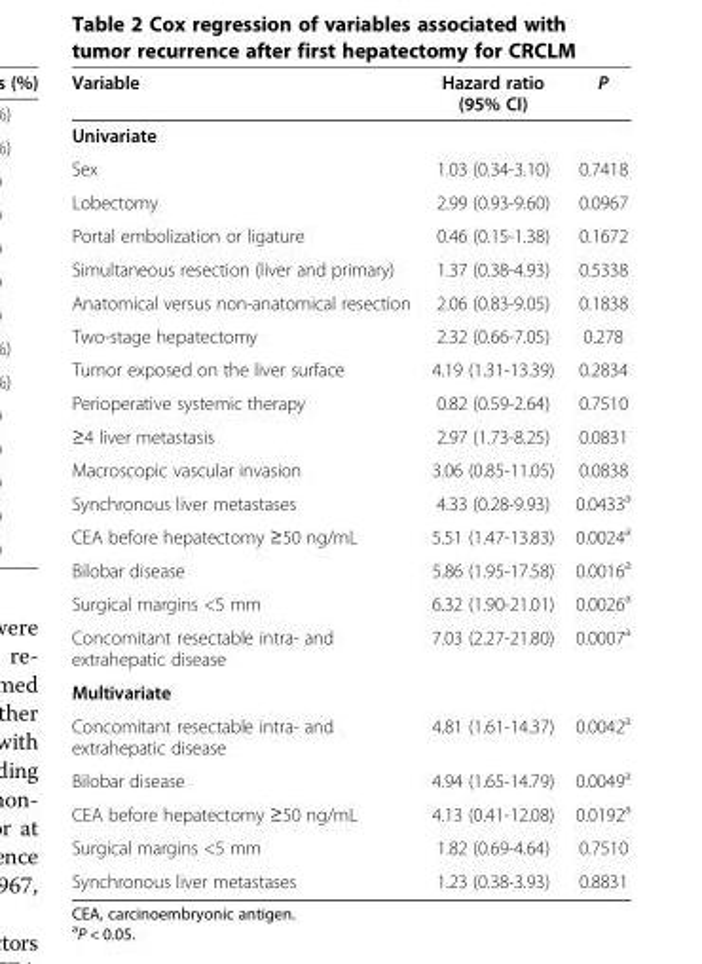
<table><thead><tr><td>Variable</td><td>Hazard ratio (95% CI)</td><td>P</td></tr></thead><tbody><tr><td colspan="3">Univariate</td></tr><tr><td>Sex</td><td>1.03 (0.34-3.10)</td><td>0.7418</td></tr><tr><td>Lobectomy</td><td>2.99 (0.93-9.60)</td><td>0.0967</td></tr><tr><td>Portal embolization or ligature</td><td>0.46 (0.15-1.38)</td><td>0.1672</td></tr><tr><td>Simultaneous resection (liver and primary)</td><td>1.37 (0.38-4.93)</td><td>0.5338</td></tr><tr><td>Anatomical versus non-anatomical resection</td><td>2.06 (0.83-9.05)</td><td>0.1838</td></tr><tr><td>Two-stage hepatectomy</td><td>2.32 (0.66-7.05)</td><td>0.278</td></tr><tr><td>Tumor exposed on the liver surface</td><td>4.19 (1.31-13.39)</td><td>0.2834</td></tr><tr><td>Perioperative systemic therapy</td><td>0.82 (0.59-2.64)</td><td>0.7510</td></tr><tr><td>≥4 liver metastasis</td><td>2.97 (1.73-8.25)</td><td>0.0831</td></tr><tr><td>Macroscopic vascular invasion</td><td>3.06 (0.85-11.05)</td><td>0.0838</td></tr><tr><td>Synchronous liver metastases</td><td>4.33 (0.28-9.93)</td><td>0.0433<sup>a</sup></td></tr><tr><td>CEA before hepatectomy ≥50 ng/mL</td><td>5.51 (1.47-13.83)</td><td>0.0024<sup>a</sup></td></tr><tr><td>Bilobar disease</td><td>5.86 (1.95-17.58)</td><td>0.0016<sup>a</sup></td></tr><tr><td>Surgical margins &lt;5 mm</td><td>6.32 (1.90-21.01)</td><td>0.0026<sup>a</sup></td></tr><tr><td>Concomitant resectable intra- and extrahepatic disease</td><td>7.03 (2.27-21.80)</td><td>0.0007<sup>a</sup></td></tr><tr><td colspan="3">Multivariate</td></tr><tr><td>Concomitant resectable intra- and extrahepatic disease</td><td>4.81 (1.61-14.37)</td><td>0.0042<sup>a</sup></td></tr><tr><td>Bilobar disease</td><td>4.94 (1.65-14.79)</td><td>0.0049<sup>a</sup></td></tr><tr><td>CEA before hepatectomy ≥50 ng/mL</td><td>4.13 (0.41-12.08)</td><td>0.0192<sup>a</sup></td></tr><tr><td>Surgical margins &lt;5 mm</td><td>1.82 (0.69-4.64)</td><td>0.7510</td></tr><tr><td>Synchronous liver metastases</td><td>1.23 (0.38-3.93)</td><td>0.8831</td></tr></tbody></table>